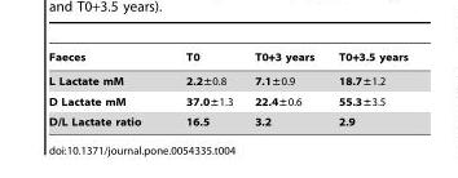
<table><thead><tr><td>Faeces</td><td>T0</td><td>T0+3 years</td><td>T0+3.5 years</td></tr></thead><tbody><tr><td>L Lactate mM</td><td>2.2±0.8</td><td>7.1±0.9</td><td>18.7±1.2</td></tr><tr><td>D Lactate mM</td><td>37.0±1.3</td><td>22.4±0.6</td><td>55.3±3.5</td></tr><tr><td>D/L Lactate ratio</td><td>16.5</td><td>3.2</td><td>2.9</td></tr></tbody></table>